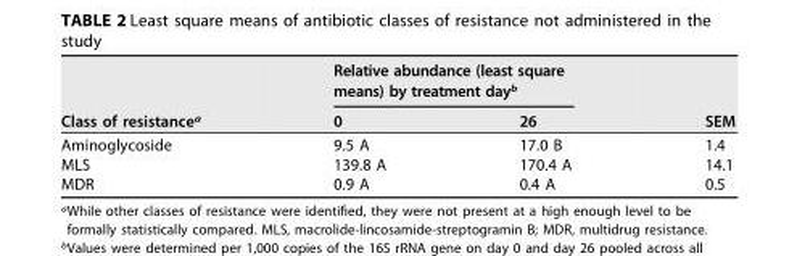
<table><thead><tr><td rowspan="2">Class of resistance<sup>a</sup></td><td colspan="2">Relative abundance (least square means) by treatment day<sup>b</sup></td><td rowspan="2">SEM</td></tr><tr><td>0</td><td>26</td></tr></thead><tbody><tr><td>Aminoglycoside</td><td>9.5 A</td><td>17.0 B</td><td>1.4</td></tr><tr><td>MLS</td><td>139.8 A</td><td>170.4 A</td><td>14.1</td></tr><tr><td>MDR</td><td>0.9 A</td><td>0.4 A</td><td>0.5</td></tr></tbody></table>